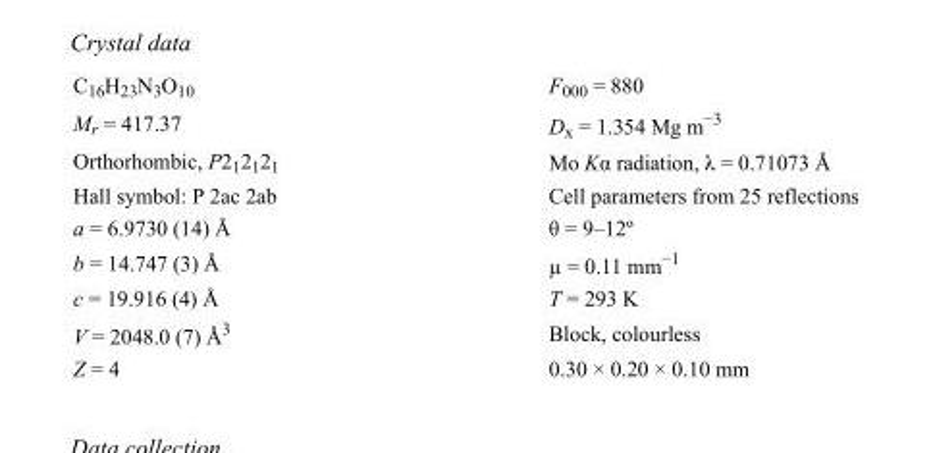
<table><tbody><tr><td>C<sub>16</sub>H<sub>23</sub>N<sub>3</sub>O<sub>10</sub></td><td>F000 = 880</td></tr><tr><td>M<sub>r</sub> = 417.37</td><td>D<sub>x</sub> = 1.354 Mg m<sup>−3</sup></td></tr><tr><td>Orthorhombic, P2<sub>1</sub>2<sub>1</sub>2<sub>1</sub></td><td>Mo Kα radiation, λ = 0.71073 Å</td></tr><tr><td>Hall symbol: P 2ac 2ab</td><td>Cell parameters from 25 reflections</td></tr><tr><td>a = 6.9730 (14) Å</td><td>θ = 9–12º</td></tr><tr><td>b = 14.747 (3) Å</td><td>µ = 0.11 mm<sup>−1</sup></td></tr><tr><td>c = 19.916 (4) Å</td><td>T = 293 K</td></tr><tr><td>V = 2048.0 (7) Å<sup>3</sup></td><td>Block, colourless</td></tr><tr><td>Z = 4</td><td>0.30 × 0.20 × 0.10 mm</td></tr></tbody></table>